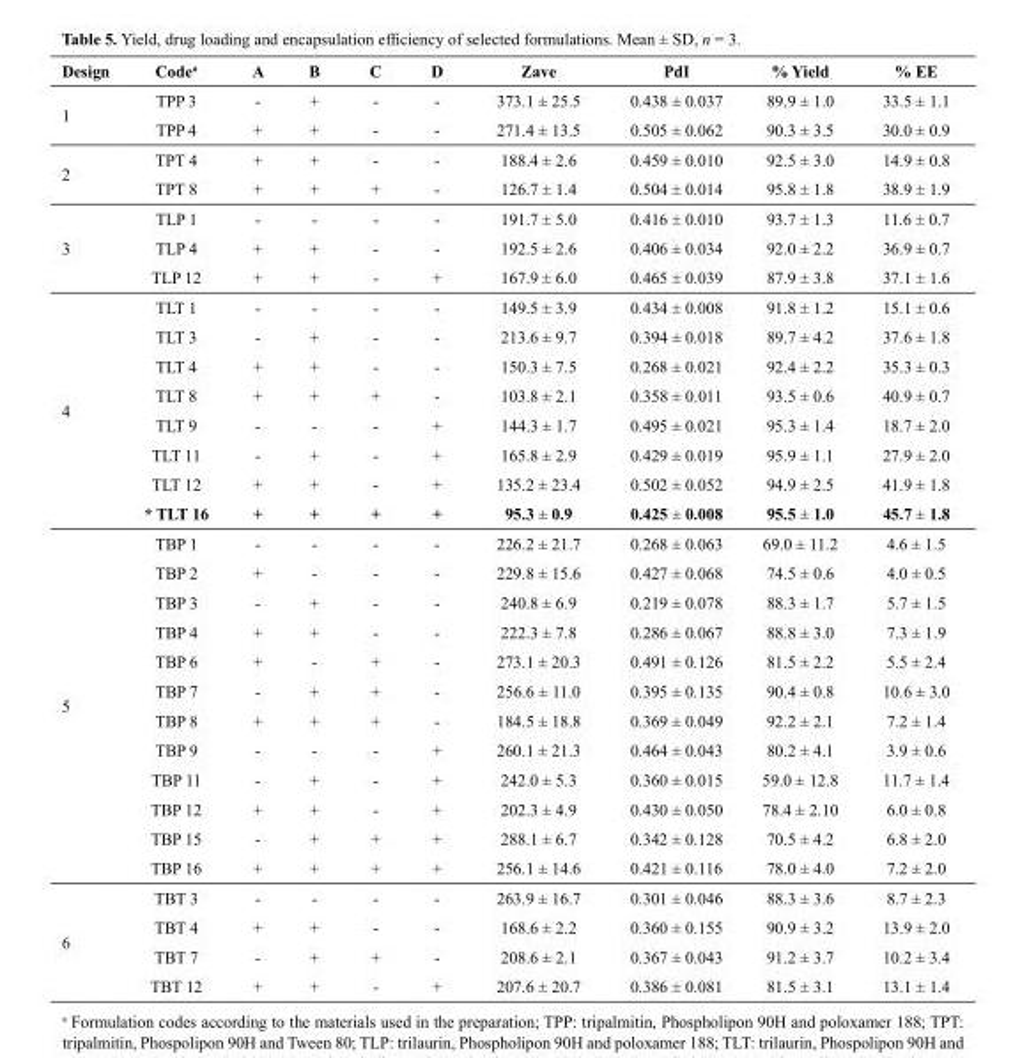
<table><thead><tr><td>Design</td><td>Codea</td><td>A</td><td>B</td><td>C</td><td>D</td><td>Zave</td><td>PdI</td><td>% Yield</td><td>% EE</td></tr></thead><tbody><tr><td rowspan="2">1</td><td>TPP 3</td><td>-</td><td>+</td><td>-</td><td>-</td><td>373.1 ± 25.5</td><td>0.438 ± 0.037</td><td>89.9 ± 1.0</td><td>33.5 ± 1.1</td></tr><tr><td>TPP 4</td><td>+</td><td>+</td><td>-</td><td>-</td><td>271.4 ± 13.5</td><td>0.505 ± 0.062</td><td>90.3 ± 3.5</td><td>30.0 ± 0.9</td></tr><tr><td rowspan="2">2</td><td>TPT 4</td><td>+</td><td>+</td><td>-</td><td>-</td><td>188.4 ± 2.6</td><td>0.459 ± 0.010</td><td>92.5 ± 3.0</td><td>14.9 ± 0.8</td></tr><tr><td>TPT 8</td><td>+</td><td>+</td><td>+</td><td>-</td><td>126.7 ± 1.4</td><td>0.504 ± 0.014</td><td>95.8 ± 1.8</td><td>38.9 ± 1.9</td></tr><tr><td rowspan="3">3</td><td>TLP 1</td><td>-</td><td>-</td><td>-</td><td>-</td><td>191.7 ± 5.0</td><td>0.416 ± 0.010</td><td>93.7 ± 1.3</td><td>11.6 ± 0.7</td></tr><tr><td>TLP 4</td><td>+</td><td>+</td><td>-</td><td>-</td><td>192.5 ± 2.6</td><td>0.406 ± 0.034</td><td>92.0 ± 2.2</td><td>36.9 ± 0.7</td></tr><tr><td>TLP 12</td><td>+</td><td>+</td><td>-</td><td>+</td><td>167.9 ± 6.0</td><td>0.465 ± 0.039</td><td>87.9 ± 3.8</td><td>37.1 ± 1.6</td></tr><tr><td rowspan="8">4</td><td>TLT 1</td><td>-</td><td>-</td><td>-</td><td>-</td><td>149.5 ± 3.9</td><td>0.434 ± 0.008</td><td>91.8 ± 1.2</td><td>15.1 ± 0.6</td></tr><tr><td>TLT 3</td><td>-</td><td>+</td><td>-</td><td>-</td><td>213.6 ± 9.7</td><td>0.394 ± 0.018</td><td>89.7 ± 4.2</td><td>37.6 ± 1.8</td></tr><tr><td>TLT 4</td><td>+</td><td>+</td><td>-</td><td>-</td><td>150.3 ± 7.5</td><td>0.268 ± 0.021</td><td>92.4 ± 2.2</td><td>35.3 ± 0.3</td></tr><tr><td>TLT 8</td><td>+</td><td>+</td><td>+</td><td>-</td><td>103.8 ± 2.1</td><td>0.358 ± 0.011</td><td>93.5 ± 0.6</td><td>40.9 ± 0.7</td></tr><tr><td>TLT 9</td><td>-</td><td>-</td><td>-</td><td>+</td><td>144.3 ± 1.7</td><td>0.495 ± 0.021</td><td>95.3 ± 1.4</td><td>18.7 ± 2.0</td></tr><tr><td>TLT 11</td><td>-</td><td>+</td><td>-</td><td>+</td><td>165.8 ± 2.9</td><td>0.429 ± 0.019</td><td>95.9 ± 1.1</td><td>27.9 ± 2.0</td></tr><tr><td>TLT 12</td><td>+</td><td>+</td><td>-</td><td>+</td><td>135.2 ± 23.4</td><td>0.502 ± 0.052</td><td>94.9 ± 2.5</td><td>41.9 ± 1.8</td></tr><tr><td>* TLT 16</td><td>+</td><td>+</td><td>+</td><td>+</td><td>95.3 ± 0.9</td><td>0.425 ± 0.008</td><td>95.5 ± 1.0</td><td>45.7 ± 1.8</td></tr><tr><td rowspan="12">5</td><td>TBP 1</td><td>-</td><td>-</td><td>-</td><td>-</td><td>226.2 ± 21.7</td><td>0.268 ± 0.063</td><td>69.0 ± 11.2</td><td>4.6 ± 1.5</td></tr><tr><td>TBP 2</td><td>+</td><td>-</td><td>-</td><td>-</td><td>229.8 ± 15.6</td><td>0.427 ± 0.068</td><td>74.5 ± 0.6</td><td>4.0 ± 0.5</td></tr><tr><td>TBP 3</td><td>-</td><td>+</td><td>-</td><td>-</td><td>240.8 ± 6.9</td><td>0.219 ± 0.078</td><td>88.3 ± 1.7</td><td>5.7 ± 1.5</td></tr><tr><td>TBP 4</td><td>+</td><td>+</td><td>-</td><td>-</td><td>222.3 ± 7.8</td><td>0.286 ± 0.067</td><td>88.8 ± 3.0</td><td>7.3 ± 1.9</td></tr><tr><td>TBP 6</td><td>+</td><td>-</td><td>+</td><td>-</td><td>273.1 ± 20.3</td><td>0.491 ± 0.126</td><td>81.5 ± 2.2</td><td>5.5 ± 2.4</td></tr><tr><td>TBP 7</td><td>-</td><td>+</td><td>+</td><td>-</td><td>256.6 ± 11.0</td><td>0.395 ± 0.135</td><td>90.4 ± 0.8</td><td>10.6 ± 3.0</td></tr><tr><td>TBP 8</td><td>+</td><td>+</td><td>+</td><td>-</td><td>184.5 ± 18.8</td><td>0.369 ± 0.049</td><td>92.2 ± 2.1</td><td>7.2 ± 1.4</td></tr><tr><td>TBP 9</td><td>-</td><td>-</td><td>-</td><td>+</td><td>260.1 ± 21.3</td><td>0.464 ± 0.043</td><td>80.2 ± 4.1</td><td>3.9 ± 0.6</td></tr><tr><td>TBP 11</td><td>-</td><td>+</td><td>-</td><td>+</td><td>242.0 ± 5.3</td><td>0.360 ± 0.015</td><td>59.0 ± 12.8</td><td>11.7 ± 1.4</td></tr><tr><td>TBP 12</td><td>+</td><td>+</td><td>-</td><td>+</td><td>202.3 ± 4.9</td><td>0.430 ± 0.050</td><td>78.4 ± 2.10</td><td>6.0 ± 0.8</td></tr><tr><td>TBP 15</td><td>-</td><td>+</td><td>+</td><td>+</td><td>288.1 ± 6.7</td><td>0.342 ± 0.128</td><td>70.5 ± 4.2</td><td>6.8 ± 2.0</td></tr><tr><td>TBP 16</td><td>+</td><td>+</td><td>+</td><td>+</td><td>256.1 ± 14.6</td><td>0.421 ± 0.116</td><td>78.0 ± 4.0</td><td>7.2 ± 2.0</td></tr><tr><td rowspan="4">6</td><td>TBT 3</td><td>-</td><td>-</td><td>-</td><td>-</td><td>263.9 ± 16.7</td><td>0.301 ± 0.046</td><td>88.3 ± 3.6</td><td>8.7 ± 2.3</td></tr><tr><td>TBT 4</td><td>+</td><td>+</td><td>-</td><td>-</td><td>168.6 ± 2.2</td><td>0.360 ± 0.155</td><td>90.9 ± 3.2</td><td>13.9 ± 2.0</td></tr><tr><td>TBT 7</td><td>-</td><td>+</td><td>+</td><td>-</td><td>208.6 ± 2.1</td><td>0.367 ± 0.043</td><td>91.2 ± 3.7</td><td>10.2 ± 3.4</td></tr><tr><td>TBT 12</td><td>+</td><td>+</td><td>-</td><td>+</td><td>207.6 ± 20.7</td><td>0.386 ± 0.081</td><td>81.5 ± 3.1</td><td>13.1 ± 1.4</td></tr></tbody></table>